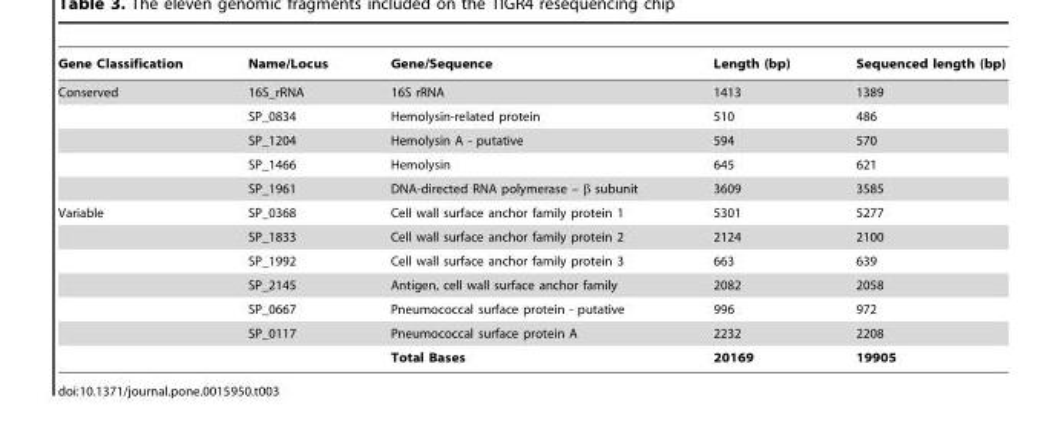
<table><thead><tr><td>Gene Classification</td><td>Name/Locus</td><td>Gene/Sequence</td><td>Length (bp)</td><td>Sequenced length (bp)</td></tr></thead><tbody><tr><td rowspan="5">Conserved</td><td>16S_rRNA</td><td>16S rRNA</td><td>1413</td><td>1389</td></tr><tr><td>SP_0834</td><td>Hemolysin-related protein</td><td>510</td><td>486</td></tr><tr><td>SP_1204</td><td>Hemolysin A - putative</td><td>594</td><td>570</td></tr><tr><td>SP_1466</td><td>Hemolysin</td><td>645</td><td>621</td></tr><tr><td>SP_1961</td><td>DNA-directed RNA polymerase – β subunit</td><td>3609</td><td>3585</td></tr><tr><td rowspan="7">Variable</td><td>SP_0368</td><td>Cell wall surface anchor family protein 1</td><td>5301</td><td>5277</td></tr><tr><td>SP_1833</td><td>Cell wall surface anchor family protein 2</td><td>2124</td><td>2100</td></tr><tr><td>SP_1992</td><td>Cell wall surface anchor family protein 3</td><td>663</td><td>639</td></tr><tr><td>SP_2145</td><td>Antigen, cell wall surface anchor family</td><td>2082</td><td>2058</td></tr><tr><td>SP_0667</td><td>Pneumococcal surface protein - putative</td><td>996</td><td>972</td></tr><tr><td>SP_0117</td><td>Pneumococcal surface protein A</td><td>2232</td><td>2208</td></tr><tr><td></td><td>Total Bases</td><td>20169</td><td>19905</td></tr></tbody></table>